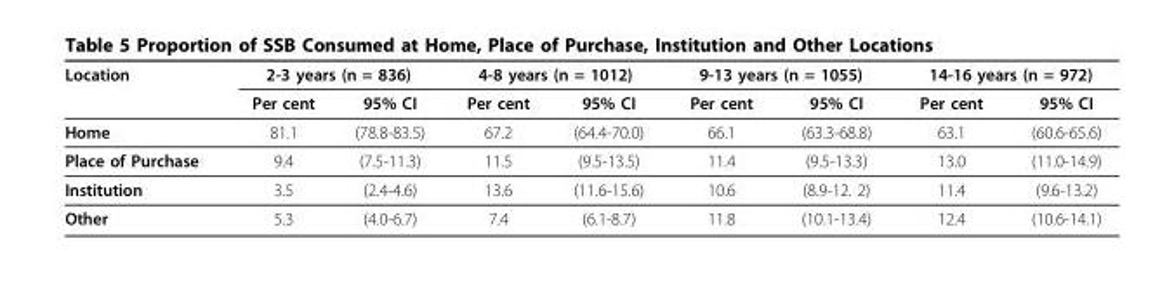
<table><thead><tr><td rowspan="2">Location</td><td colspan="2">2-3 years (n = 836)</td><td colspan="2">4-8 years (n = 1012)</td><td colspan="2">9-13 years (n = 1055)</td><td colspan="2">14-16 years (n = 972)</td></tr><tr><td>Per cent</td><td>95% CI</td><td>Per cent</td><td>95% CI</td><td>Per cent</td><td>95% CI</td><td>Per cent</td><td>95% CI</td></tr></thead><tbody><tr><td>Home</td><td>81.1</td><td>(78.8-83.5)</td><td>67.2</td><td>(64.4-70.0)</td><td>66.1</td><td>(63.3-68.8)</td><td>63.1</td><td>(60.6-65.6)</td></tr><tr><td>Place of Purchase</td><td>9.4</td><td>(7.5-11.3)</td><td>11.5</td><td>(9.5-13.5)</td><td>11.4</td><td>(9.5-13.3)</td><td>13.0</td><td>(11.0-14.9)</td></tr><tr><td>Institution</td><td>3.5</td><td>(2.4-4.6)</td><td>13.6</td><td>(11.6-15.6)</td><td>10.6</td><td>(8.9-12. 2)</td><td>11.4</td><td>(9.6-13.2)</td></tr><tr><td>Other</td><td>5.3</td><td>(4.0-6.7)</td><td>7.4</td><td>(6.1-8.7)</td><td>11.8</td><td>(10.1-13.4)</td><td>12.4</td><td>(10.6-14.1)</td></tr></tbody></table>